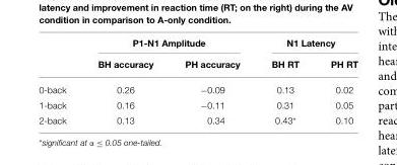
<table><thead><tr><td rowspan="2"></td><td colspan="2">P1-N1 Amplitude</td><td colspan="2">N1 Latency</td></tr><tr><td>BH accuracy</td><td>PH accuracy</td><td>BH RT</td><td>PH RT</td></tr></thead><tbody><tr><td>0-back</td><td>0.26</td><td>−0.09</td><td>0.13</td><td>0.02</td></tr><tr><td>1-back</td><td>0.16</td><td>−0.11</td><td>0.31</td><td>0.05</td></tr><tr><td>2-back</td><td>0.13</td><td>0.34</td><td>0.43*</td><td>0.10</td></tr></tbody></table>